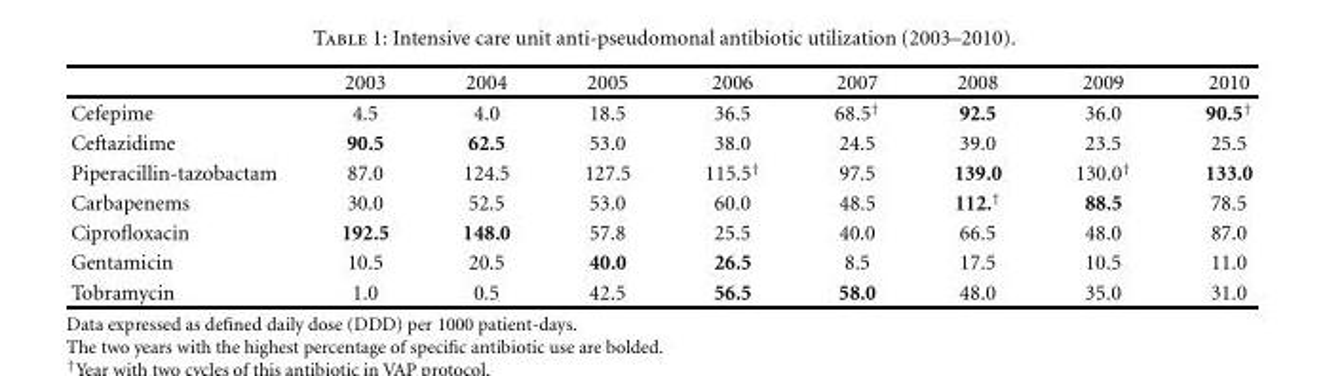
<table><thead><tr><td></td><td>2003</td><td>2004</td><td>2005</td><td>2006</td><td>2007</td><td>2008</td><td>2009</td><td>2010</td></tr></thead><tbody><tr><td>Cefepime</td><td>4.5</td><td>4.0</td><td>18.5</td><td>36.5</td><td>68.5<sup>†</sup></td><td>92.5</td><td>36.0</td><td>90.5<sup>†</sup></td></tr><tr><td>Ceftazidime</td><td>90.5</td><td>62.5</td><td>53.0</td><td>38.0</td><td>24.5</td><td>39.0</td><td>23.5</td><td>25.5</td></tr><tr><td>Piperacillin-tazobactam</td><td>87.0</td><td>124.5</td><td>127.5</td><td>115.5<sup>†</sup></td><td>97.5</td><td>139.0</td><td>130.0<sup>†</sup></td><td>133.0</td></tr><tr><td>Carbapenems</td><td>30.0</td><td>52.5</td><td>53.0</td><td>60.0</td><td>48.5</td><td>112.<sup>†</sup></td><td>88.5</td><td>78.5</td></tr><tr><td>Ciprofloxacin</td><td>192.5</td><td>148.0</td><td>57.8</td><td>25.5</td><td>40.0</td><td>66.5</td><td>48.0</td><td>87.0</td></tr><tr><td>Gentamicin</td><td>10.5</td><td>20.5</td><td>40.0</td><td>26.5</td><td>8.5</td><td>17.5</td><td>10.5</td><td>11.0</td></tr><tr><td>Tobramycin</td><td>1.0</td><td>0.5</td><td>42.5</td><td>56.5</td><td>58.0</td><td>48.0</td><td>35.0</td><td>31.0</td></tr></tbody></table>